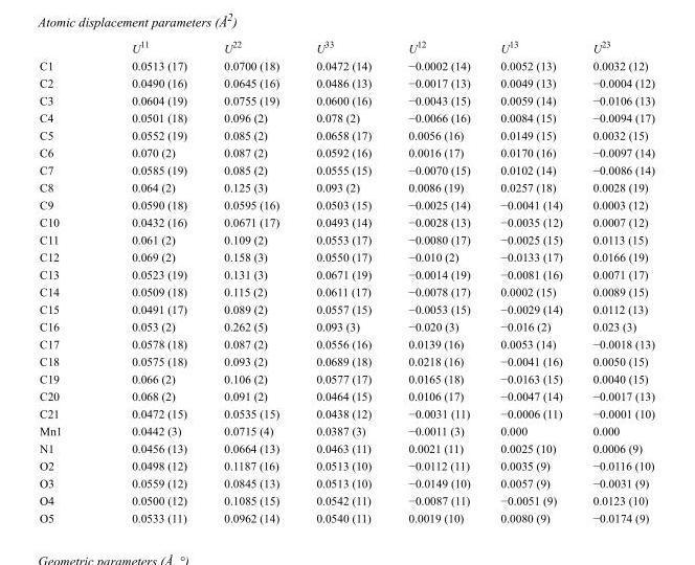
<table><thead><tr><td></td><td>U<sup>11</sup></td><td>U<sup>22</sup></td><td>U<sup>33</sup></td><td>U<sup>12</sup></td><td>U<sup>13</sup></td><td>U<sup>23</sup></td></tr></thead><tbody><tr><td>C1</td><td>0.0513 (17)</td><td>0.0700 (18)</td><td>0.0472 (14)</td><td>−0.0002 (14)</td><td>0.0052 (13)</td><td>0.0032 (12)</td></tr><tr><td>C2</td><td>0.0490 (16)</td><td>0.0645 (16)</td><td>0.0486 (13)</td><td>−0.0017 (13)</td><td>0.0049 (13)</td><td>−0.0004 (12)</td></tr><tr><td>C3</td><td>0.0604 (19)</td><td>0.0755 (19)</td><td>0.0600 (16)</td><td>−0.0043 (15)</td><td>0.0059 (14)</td><td>−0.0106 (13)</td></tr><tr><td>C4</td><td>0.0501 (18)</td><td>0.096 (2)</td><td>0.078 (2)</td><td>−0.0066 (16)</td><td>0.0084 (15)</td><td>−0.0094 (17)</td></tr><tr><td>C5</td><td>0.0552 (19)</td><td>0.085 (2)</td><td>0.0658 (17)</td><td>0.0056 (16)</td><td>0.0149 (15)</td><td>0.0032 (15)</td></tr><tr><td>C6</td><td>0.070 (2)</td><td>0.087 (2)</td><td>0.0592 (16)</td><td>0.0016 (17)</td><td>0.0170 (16)</td><td>−0.0097 (14)</td></tr><tr><td>C7</td><td>0.0585 (19)</td><td>0.085 (2)</td><td>0.0555 (15)</td><td>−0.0070 (15)</td><td>0.0102 (14)</td><td>−0.0086 (14)</td></tr><tr><td>C8</td><td>0.064 (2)</td><td>0.125 (3)</td><td>0.093 (2)</td><td>0.0086 (19)</td><td>0.0257 (18)</td><td>0.0028 (19)</td></tr><tr><td>C9</td><td>0.0590 (18)</td><td>0.0595 (16)</td><td>0.0503 (15)</td><td>−0.0025 (14)</td><td>−0.0041 (14)</td><td>0.0003 (12)</td></tr><tr><td>C10</td><td>0.0432 (16)</td><td>0.0671 (17)</td><td>0.0493 (14)</td><td>−0.0028 (13)</td><td>−0.0035 (12)</td><td>0.0007 (12)</td></tr><tr><td>C11</td><td>0.061 (2)</td><td>0.109 (2)</td><td>0.0553 (17)</td><td>−0.0080 (17)</td><td>−0.0025 (15)</td><td>0.0113 (15)</td></tr><tr><td>C12</td><td>0.069 (2)</td><td>0.158 (3)</td><td>0.0550 (17)</td><td>−0.010 (2)</td><td>−0.0133 (17)</td><td>0.0166 (19)</td></tr><tr><td>C13</td><td>0.0523 (19)</td><td>0.131 (3)</td><td>0.0671 (19)</td><td>−0.0014 (19)</td><td>−0.0081 (16)</td><td>0.0071 (17)</td></tr><tr><td>C14</td><td>0.0509 (18)</td><td>0.115 (2)</td><td>0.0611 (17)</td><td>−0.0078 (17)</td><td>0.0002 (15)</td><td>0.0089 (15)</td></tr><tr><td>C15</td><td>0.0491 (17)</td><td>0.089 (2)</td><td>0.0557 (15)</td><td>−0.0053 (15)</td><td>−0.0029 (14)</td><td>0.0112 (13)</td></tr><tr><td>C16</td><td>0.053 (2)</td><td>0.262 (5)</td><td>0.093 (3)</td><td>−0.020 (3)</td><td>−0.016 (2)</td><td>0.023 (3)</td></tr><tr><td>C17</td><td>0.0578 (18)</td><td>0.087 (2)</td><td>0.0556 (16)</td><td>0.0139 (16)</td><td>0.0053 (14)</td><td>−0.0018 (13)</td></tr><tr><td>C18</td><td>0.0575 (18)</td><td>0.093 (2)</td><td>0.0689 (18)</td><td>0.0218 (16)</td><td>−0.0041 (16)</td><td>0.0050 (15)</td></tr><tr><td>C19</td><td>0.066 (2)</td><td>0.106 (2)</td><td>0.0577 (17)</td><td>0.0165 (18)</td><td>−0.0163 (15)</td><td>0.0040 (15)</td></tr><tr><td>C20</td><td>0.068 (2)</td><td>0.091 (2)</td><td>0.0464 (15)</td><td>0.0106 (17)</td><td>−0.0047 (14)</td><td>−0.0017 (13)</td></tr><tr><td>C21</td><td>0.0472 (15)</td><td>0.0535 (15)</td><td>0.0438 (12)</td><td>−0.0031 (11)</td><td>−0.0006 (11)</td><td>−0.0001 (10)</td></tr><tr><td>Mn1</td><td>0.0442 (3)</td><td>0.0715 (4)</td><td>0.0387 (3)</td><td>−0.0011 (3)</td><td>0.000</td><td>0.000</td></tr><tr><td>N1</td><td>0.0456 (13)</td><td>0.0664 (13)</td><td>0.0463 (11)</td><td>0.0021 (11)</td><td>0.0025 (10)</td><td>0.0006 (9)</td></tr><tr><td>O2</td><td>0.0498 (12)</td><td>0.1187 (16)</td><td>0.0513 (10)</td><td>−0.0112 (11)</td><td>0.0035 (9)</td><td>−0.0116 (10)</td></tr><tr><td>O3</td><td>0.0559 (12)</td><td>0.0845 (13)</td><td>0.0513 (10)</td><td>−0.0149 (10)</td><td>0.0057 (9)</td><td>−0.0031 (9)</td></tr><tr><td>O4</td><td>0.0500 (12)</td><td>0.1085 (15)</td><td>0.0542 (11)</td><td>−0.0087 (11)</td><td>−0.0051 (9)</td><td>0.0123 (10)</td></tr><tr><td>O5</td><td>0.0533 (11)</td><td>0.0962 (14)</td><td>0.0540 (11)</td><td>0.0019 (10)</td><td>0.0080 (9)</td><td>−0.0174 (9)</td></tr></tbody></table>